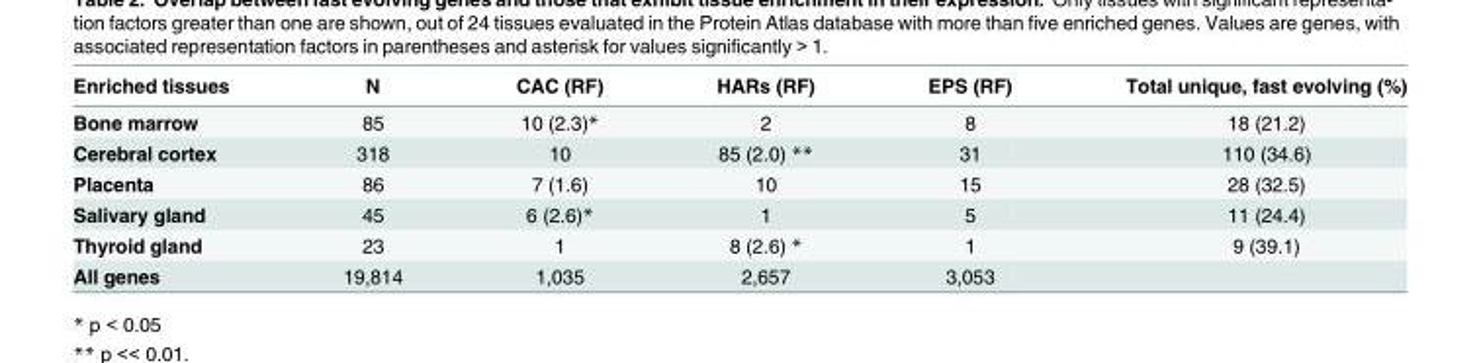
<table><thead><tr><td>Enriched tissues</td><td>N</td><td>CAC (RF)</td><td>HARs (RF)</td><td>EPS (RF)</td><td>Total unique, fast evolving (%)</td></tr></thead><tbody><tr><td>Bone marrow</td><td>85</td><td>10 (2.3)*</td><td>2</td><td>8</td><td>18 (21.2)</td></tr><tr><td>Cerebral cortex</td><td>318</td><td>10</td><td>85 (2.0) **</td><td>31</td><td>110 (34.6)</td></tr><tr><td>Placenta</td><td>86</td><td>7 (1.6)</td><td>10</td><td>15</td><td>28 (32.5)</td></tr><tr><td>Salivary gland</td><td>45</td><td>6 (2.6)*</td><td>1</td><td>5</td><td>11 (24.4)</td></tr><tr><td>Thyroid gland</td><td>23</td><td>1</td><td>8 (2.6) *</td><td>1</td><td>9 (39.1)</td></tr><tr><td>All genes</td><td>19,814</td><td>1,035</td><td>2,657</td><td>3,053</td><td></td></tr></tbody></table>